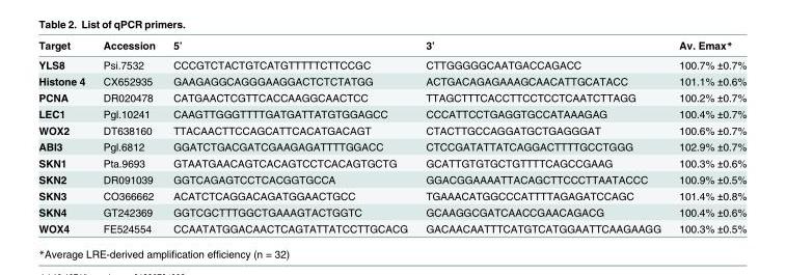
<table><thead><tr><td>Target</td><td>Accession</td><td>5’</td><td>3’</td><td>Av. Emax*</td></tr></thead><tbody><tr><td>YLS8</td><td>Psi.7532</td><td>CCCGTCTACTGTCATGTTTTTCTTCCGC</td><td>CTTGGGGGCAATGACCAGACC</td><td>100.7% ±0.7%</td></tr><tr><td>Histone 4</td><td>CX652935</td><td>GAAGAGGCAGGGAAGGACTCTCTATGG</td><td>ACTGACAGAGAAAGCAACATTGCATACC</td><td>101.1% ±0.6%</td></tr><tr><td>PCNA</td><td>DR020478</td><td>CATGAACTCGTTCACCAAGGCAACTCC</td><td>TTAGCTTTCACCTTCCTCCTCAATCTTAGG</td><td>100.2% ±0.7%</td></tr><tr><td>LEC1</td><td>Pgl.10241</td><td>CAAGTTGGGTTTTGATGATTATGTGGAGCC</td><td>CCCATTCCTGAGGTGCCATAAAGAG</td><td>100.4% ±0.7%</td></tr><tr><td>WOX2</td><td>DT638160</td><td>TTACAACTTCCAGCATTCACATGACAGT</td><td>CTACTTGCCAGGATGCTGAGGGAT</td><td>100.6% ±0.7%</td></tr><tr><td>ABI3</td><td>Pgl.6812</td><td>GGATCTGACGATCGAAGAGATTTTGGACC</td><td>CTCCGATATTATCAGGACTTTTGCCTGGG</td><td>102.9% ±0.7%</td></tr><tr><td>SKN1</td><td>Pta.9693</td><td>GTAATGAACAGTCACAGTCCTCACAGTGCTG</td><td>GCATTGTGTGCTGTTTTCAGCCGAAG</td><td>100.3% ±0.6%</td></tr><tr><td>SKN2</td><td>DR091039</td><td>GGTCAGAGTCCTCACGGTGCCA</td><td>GGACGGAAAATTACAGCTTCCCTTAATACCC</td><td>100.9% ±0.5%</td></tr><tr><td>SKN3</td><td>CO366662</td><td>ACATCTCAGGACAGATGGAACTGCC</td><td>TGAAACATGGCCCATTTTAGAGATCCAGC</td><td>101.4% ±0.8%</td></tr><tr><td>SKN4</td><td>GT242369</td><td>GGTCGCTTTGGCTGAAAGTACTGGTC</td><td>GCAAGGCGATCAACCGAACAGACG</td><td>100.4% ±0.6%</td></tr><tr><td>WOX4</td><td>FE524554</td><td>CCAATATGGACAACTCAGTATTATCCTTGCACG</td><td>GACAACAATTTCATGTCATGGAATTCAAGAAGG</td><td>100.3% ±0.5%</td></tr></tbody></table>